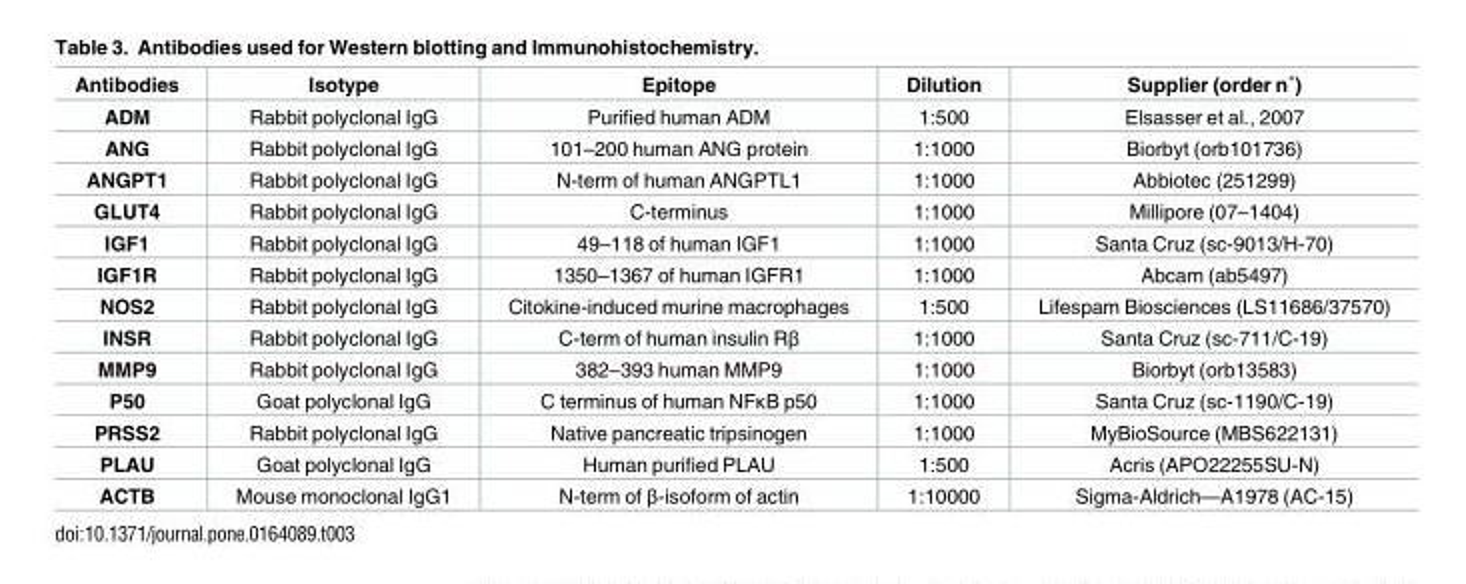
<table><thead><tr><td>Antibodies</td><td>Isotype</td><td>Epitope</td><td>Dilution</td><td>Supplier (order n˚)</td></tr></thead><tbody><tr><td>ADM</td><td>Rabbit polyclonal IgG</td><td>Purified human ADM</td><td>1:500</td><td>Elsasser et al., 2007</td></tr><tr><td>ANG</td><td>Rabbit polyclonal IgG</td><td>101–200 human ANG protein</td><td>1:1000</td><td>Biorbyt (orb101736)</td></tr><tr><td>ANGPT1</td><td>Rabbit polyclonal IgG</td><td>N-term of human ANGPTL1</td><td>1:1000</td><td>Abbiotec (251299)</td></tr><tr><td>GLUT4</td><td>Rabbit polyclonal IgG</td><td>C-terminus</td><td>1:1000</td><td>Millipore (07–1404)</td></tr><tr><td>IGF1</td><td>Rabbit polyclonal IgG</td><td>49–118 of human IGF1</td><td>1:1000</td><td>Santa Cruz (sc-9013/H-70)</td></tr><tr><td>IGF1R</td><td>Rabbit polyclonal IgG</td><td>1350–1367 of human IGFR1</td><td>1:1000</td><td>Abcam (ab5497)</td></tr><tr><td>NOS2</td><td>Rabbit polyclonal IgG</td><td>Citokine-induced murine macrophages</td><td>1:500</td><td>Lifespam Biosciences (LS11686/37570)</td></tr><tr><td>INSR</td><td>Rabbit polyclonal IgG</td><td>C-term of human insulin Rβ</td><td>1:1000</td><td>Santa Cruz (sc-711/C-19)</td></tr><tr><td>MMP9</td><td>Rabbit polyclonal IgG</td><td>382–393 human MMP9</td><td>1:1000</td><td>Biorbyt (orb13583)</td></tr><tr><td>P50</td><td>Goat polyclonal IgG</td><td>C terminus of human NFκB p50</td><td>1:1000</td><td>Santa Cruz (sc-1190/C-19)</td></tr><tr><td>PRSS2</td><td>Rabbit polyclonal IgG</td><td>Native pancreatic tripsinogen</td><td>1:1000</td><td>MyBioSource (MBS622131)</td></tr><tr><td>PLAU</td><td>Goat polyclonal IgG</td><td>Human purified PLAU</td><td>1:500</td><td>Acris (APO22255SU-N)</td></tr><tr><td>ACTB</td><td>Mouse monoclonal IgG1</td><td>N-term of β-isoform of actin</td><td>1:10000</td><td>Sigma-Aldrich—A1978 (AC-15)</td></tr></tbody></table>